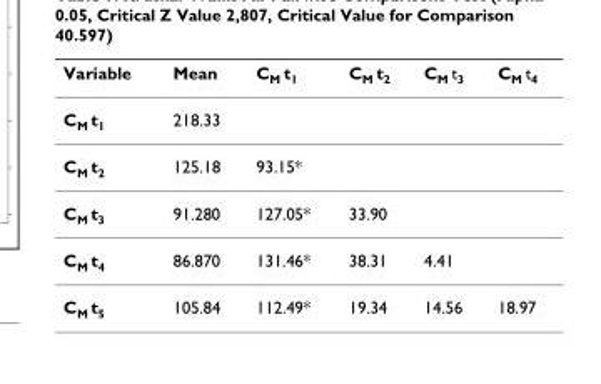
<table><thead><tr><td>Variable</td><td>Mean</td><td>C<sub>M</sub> t<sub>1</sub></td><td>C<sub>M</sub> t<sub>2</sub></td><td>C<sub>M</sub> t<sub>3</sub></td><td>C<sub>M</sub> t<sub>4</sub></td></tr></thead><tbody><tr><td>C<sub>M</sub> t<sub>1</sub></td><td>218.33</td><td></td><td></td><td></td><td></td></tr><tr><td>CM t2</td><td>125.18</td><td>93.15*</td><td></td><td></td><td></td></tr><tr><td>CM t3</td><td>91.280</td><td>127.05*</td><td>33.90</td><td></td><td></td></tr><tr><td>CM t4</td><td>86.870</td><td>131.46*</td><td>38.31</td><td>4.41</td><td></td></tr><tr><td>CM t5</td><td>105.84</td><td>112.49*</td><td>19.34</td><td>14.56</td><td>18.97</td></tr></tbody></table>